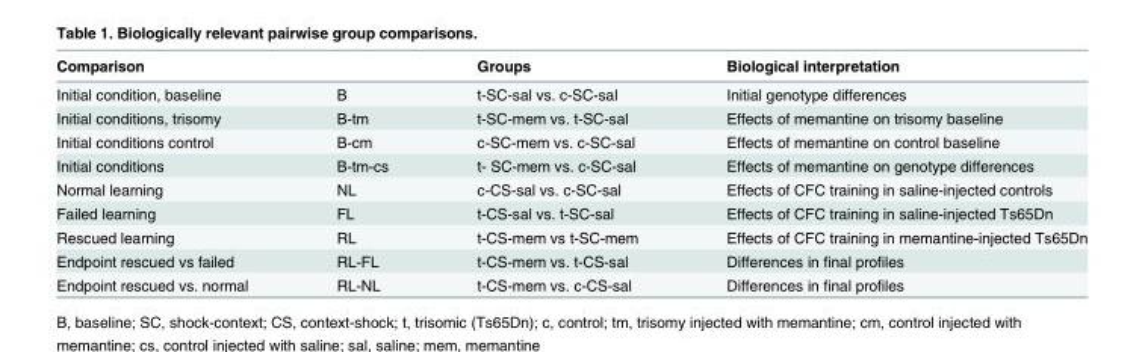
<table><thead><tr><td>Comparison</td><td></td><td>Groups</td><td>Biological interpretation</td></tr></thead><tbody><tr><td>Initial condition, baseline</td><td>B</td><td>t-SC-sal vs. c-SC-sal</td><td>Initial genotype differences</td></tr><tr><td>Initial conditions, trisomy</td><td>B-tm</td><td>t-SC-mem vs. t-SC-sal</td><td>Effects of memantine on trisomy baseline</td></tr><tr><td>Initial conditions control</td><td>B-cm</td><td>c-SC-mem vs. c-SC-sal</td><td>Effects of memantine on control baseline</td></tr><tr><td>Initial conditions</td><td>B-tm-cs</td><td>t- SC-mem vs. c-SC-sal</td><td>Effects of memantine on genotype differences</td></tr><tr><td>Normal learning</td><td>NL</td><td>c-CS-sal vs. c-SC-sal</td><td>Effects of CFC training in saline-injected controls</td></tr><tr><td>Failed learning</td><td>FL</td><td>t-CS-sal vs. t-SC-sal</td><td>Effects of CFC training in saline-injected Ts65Dn</td></tr><tr><td>Rescued learning</td><td>RL</td><td>t-CS-mem vs t-SC-mem</td><td>Effects of CFC training in memantine-injected Ts65Dn</td></tr><tr><td>Endpoint rescued vs failed</td><td>RL-FL</td><td>t-CS-mem vs. t-CS-sal</td><td>Differences in final profiles</td></tr><tr><td>Endpoint rescued vs. normal</td><td>RL-NL</td><td>t-CS-mem vs. c-CS-sal</td><td>Differences in final profiles</td></tr></tbody></table>